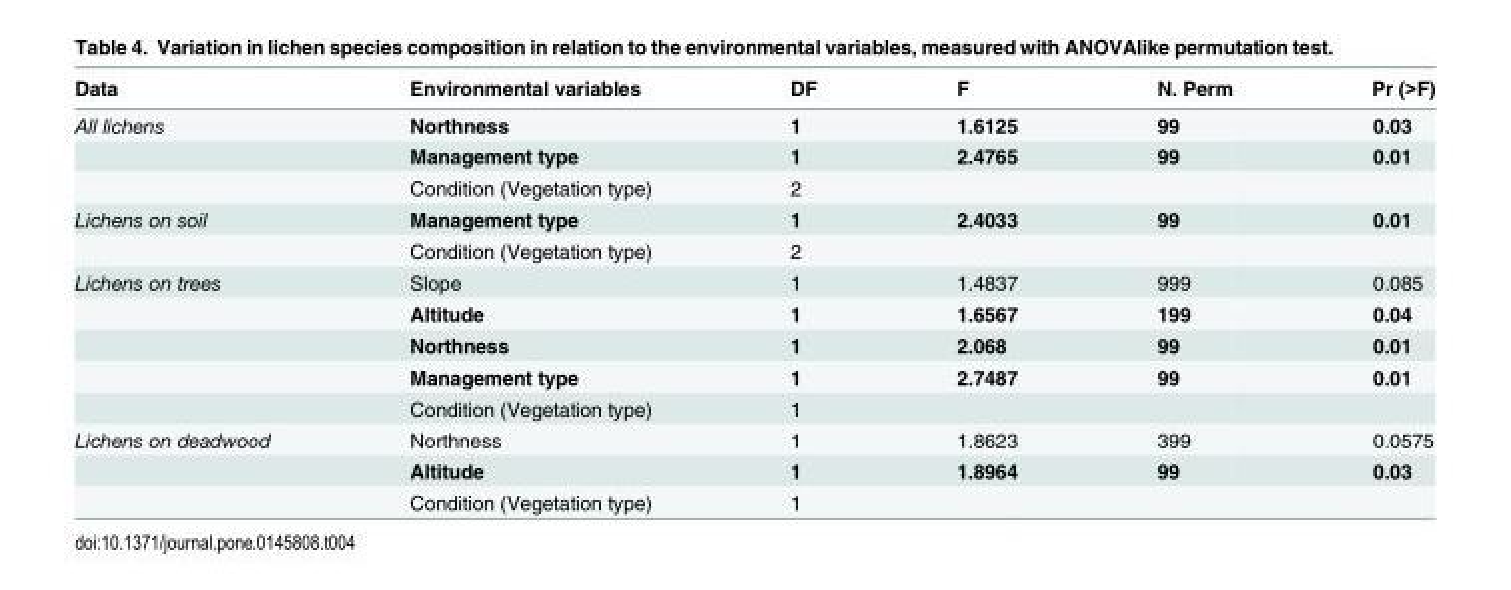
<table><thead><tr><td>Data</td><td>Environmental variables</td><td>DF</td><td>F</td><td>N. Perm</td><td>Pr (&gt;F)</td></tr></thead><tbody><tr><td rowspan="3">All lichens</td><td>Northness</td><td>1</td><td>1.6125</td><td>99</td><td>0.03</td></tr><tr><td>Management type</td><td>1</td><td>2.4765</td><td>99</td><td>0.01</td></tr><tr><td>Condition (Vegetation type)</td><td>2</td><td></td><td></td><td></td></tr><tr><td rowspan="2">Lichens on soil</td><td>Management type</td><td>1</td><td>2.4033</td><td>99</td><td>0.01</td></tr><tr><td>Condition (Vegetation type)</td><td>2</td><td></td><td></td><td></td></tr><tr><td rowspan="5">Lichens on trees</td><td>Slope</td><td>1</td><td>1.4837</td><td>999</td><td>0.085</td></tr><tr><td>Altitude</td><td>1</td><td>1.6567</td><td>199</td><td>0.04</td></tr><tr><td>Northness</td><td>1</td><td>2.068</td><td>99</td><td>0.01</td></tr><tr><td>Management type</td><td>1</td><td>2.7487</td><td>99</td><td>0.01</td></tr><tr><td>Condition (Vegetation type)</td><td>1</td><td></td><td></td><td></td></tr><tr><td rowspan="3">Lichens on deadwood</td><td>Northness</td><td>1</td><td>1.8623</td><td>399</td><td>0.0575</td></tr><tr><td>Altitude</td><td>1</td><td>1.8964</td><td>99</td><td>0.03</td></tr><tr><td>Condition (Vegetation type)</td><td>1</td><td></td><td></td><td></td></tr></tbody></table>